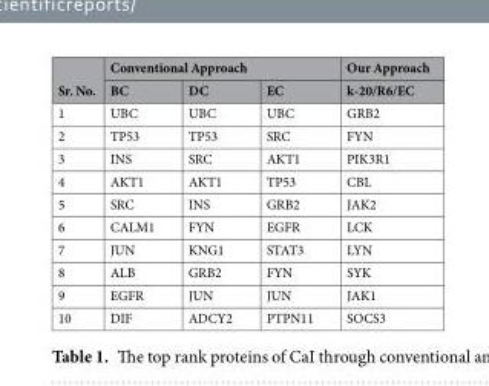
<table><thead><tr><td rowspan="2">Sr. No.</td><td colspan="3">Conventional Approach</td><td rowspan="2">Our Approach k-20/R6/EC</td></tr><tr><td>BC</td><td>DC</td><td>EC</td></tr></thead><tbody><tr><td>1</td><td>UBC</td><td>UBC</td><td>UBC</td><td>GRB2</td></tr><tr><td>2</td><td>TP53</td><td>TP53</td><td>SRC</td><td>FYN</td></tr><tr><td>3</td><td>INS</td><td>SRC</td><td>AKT1</td><td>PIK3R1</td></tr><tr><td>4</td><td>AKT1</td><td>AKT1</td><td>TP53</td><td>CBL</td></tr><tr><td>5</td><td>SRC</td><td>INS</td><td>GRB2</td><td>JAK2</td></tr><tr><td>6</td><td>CALM1</td><td>FYN</td><td>EGFR</td><td>LCK</td></tr><tr><td>7</td><td>JUN</td><td>KNG1</td><td>STAT3</td><td>LYN</td></tr><tr><td>8</td><td>ALB</td><td>GRB2</td><td>FYN</td><td>SYK</td></tr><tr><td>9</td><td>EGFR</td><td>JUN</td><td>JUN</td><td>JAK1</td></tr><tr><td>10</td><td>DIF</td><td>ADCY2</td><td>PTPN11</td><td>SOCS3</td></tr></tbody></table>